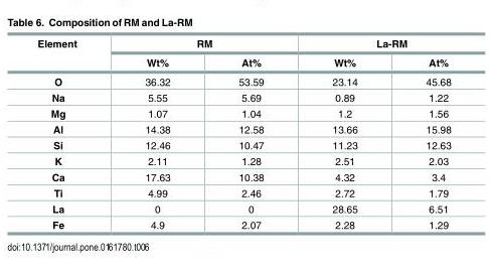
<table><thead><tr><td rowspan="2">Element</td><td colspan="2">RM</td><td colspan="2">La-RM</td></tr><tr><td>Wt%</td><td>At%</td><td>Wt%</td><td>At%</td></tr></thead><tbody><tr><td>O</td><td>36.32</td><td>53.59</td><td>23.14</td><td>45.68</td></tr><tr><td>Na</td><td>5.55</td><td>5.69</td><td>0.89</td><td>1.22</td></tr><tr><td>Mg</td><td>1.07</td><td>1.04</td><td>1.2</td><td>1.56</td></tr><tr><td>Al</td><td>14.38</td><td>12.58</td><td>13.66</td><td>15.98</td></tr><tr><td>Si</td><td>12.46</td><td>10.47</td><td>11.23</td><td>12.63</td></tr><tr><td>K</td><td>2.11</td><td>1.28</td><td>2.51</td><td>2.03</td></tr><tr><td>Ca</td><td>17.63</td><td>10.38</td><td>4.32</td><td>3.4</td></tr><tr><td>Ti</td><td>4.99</td><td>2.46</td><td>2.72</td><td>1.79</td></tr><tr><td>La</td><td>0</td><td>0</td><td>28.65</td><td>6.51</td></tr><tr><td>Fe</td><td>4.9</td><td>2.07</td><td>2.28</td><td>1.29</td></tr></tbody></table>